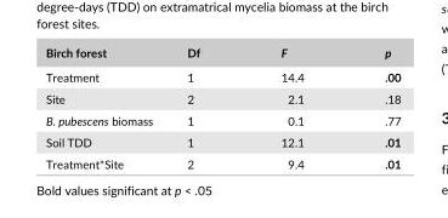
<table><thead><tr><td>Birch forest</td><td>Df</td><td>F</td><td>p</td></tr></thead><tbody><tr><td>Treatment</td><td>1</td><td>14.4</td><td>.00</td></tr><tr><td>Site</td><td>2</td><td>2.1</td><td>.18</td></tr><tr><td>B. pubescens biomass</td><td>1</td><td>0.1</td><td>.77</td></tr><tr><td>Soil TDD</td><td>1</td><td>12.1</td><td>.01</td></tr><tr><td>Treatment*Site</td><td>2</td><td>9.4</td><td>.01</td></tr></tbody></table>